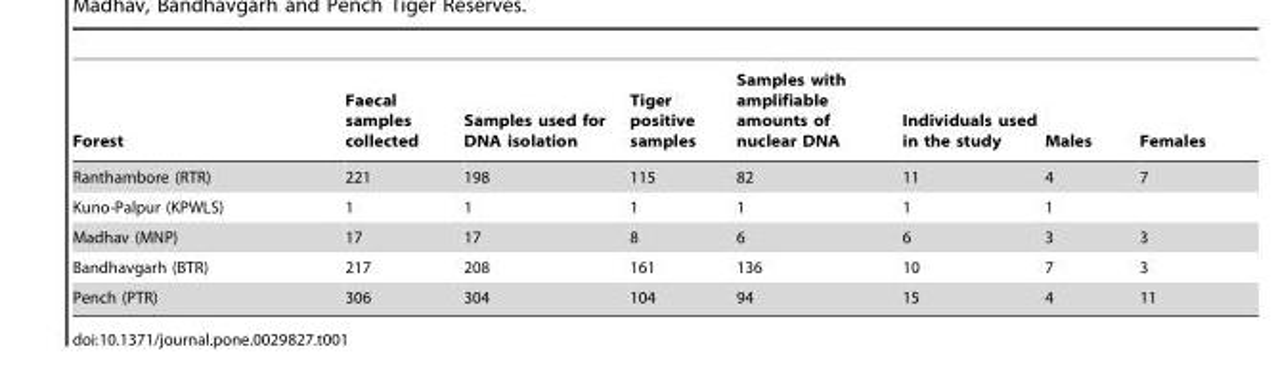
<table><thead><tr><td>Forest</td><td>Faecal samples collected</td><td>Samples used for DNA isolation</td><td>Tiger positive samples</td><td>Samples with amplifiable amounts of nuclear DNA</td><td>Individuals used in the study</td><td>Males</td><td>Females</td></tr></thead><tbody><tr><td>Ranthambore (RTR)</td><td>221</td><td>198</td><td>115</td><td>82</td><td>11</td><td>4</td><td>7</td></tr><tr><td>Kuno-Palpur (KPWLS)</td><td>1</td><td>1</td><td>1</td><td>1</td><td>1</td><td>1</td><td></td></tr><tr><td>Madhav (MNP)</td><td>17</td><td>17</td><td>8</td><td>6</td><td>6</td><td>3</td><td>3</td></tr><tr><td>Bandhavgarh (BTR)</td><td>217</td><td>208</td><td>161</td><td>136</td><td>10</td><td>7</td><td>3</td></tr><tr><td>Pench (PTR)</td><td>306</td><td>304</td><td>104</td><td>94</td><td>15</td><td>4</td><td>11</td></tr></tbody></table>